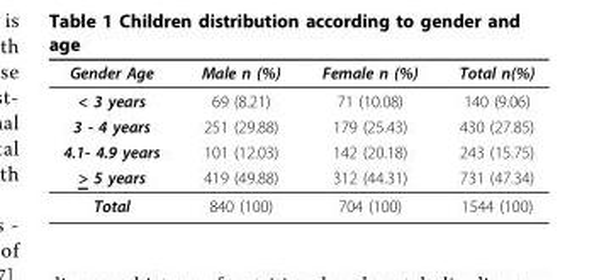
<table><thead><tr><td>Gender Age</td><td>Male n (%)</td><td>Female n (%)</td><td>Total n(%)</td></tr></thead><tbody><tr><td>&lt; 3 years</td><td>69 (8.21)</td><td>71 (10.08)</td><td>140 (9.06)</td></tr><tr><td>3 - 4 years</td><td>251 (29.88)</td><td>179 (25.43)</td><td>430 (27.85)</td></tr><tr><td>4.1- 4.9 years</td><td>101 (12.03)</td><td>142 (20.18)</td><td>243 (15.75)</td></tr><tr><td>&gt; 5 years</td><td>419 (49.88)</td><td>312 (44.31)</td><td>731 (47.34)</td></tr><tr><td>Total</td><td>840 (100)</td><td>704 (100)</td><td>1544 (100)</td></tr></tbody></table>